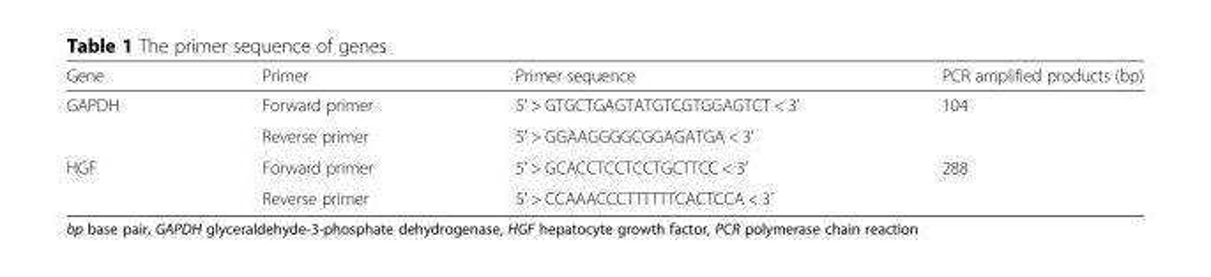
<table><thead><tr><td>Gene</td><td>Primer</td><td>Primer sequence</td><td>PCR amplified products (bp)</td></tr></thead><tbody><tr><td rowspan="2">GAPDH</td><td>Forward primer</td><td>5’ &gt; GTGCTGAGTATGTCGTGGAGTCT &lt; 3’</td><td rowspan="2">104</td></tr><tr><td>Reverse primer</td><td>5’ &gt; GGAAGGGGCGGAGATGA &lt; 3’</td></tr><tr><td rowspan="2">HGF</td><td>Forward primer</td><td>5’ &gt; GCACCTCCTCCTGCTTCC &lt; 3’</td><td rowspan="2">288</td></tr><tr><td>Reverse primer</td><td>5’ &gt; CCAAACCCTTTTTTCACTCCA &lt; 3’</td></tr></tbody></table>